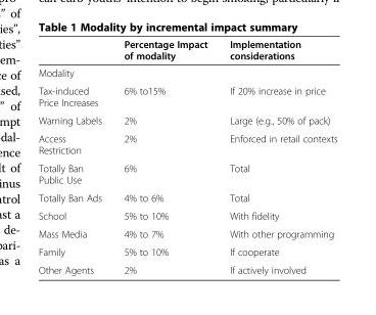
<table><thead><tr><td></td><td>Percentage Impact of modality</td><td>Implementation considerations</td></tr></thead><tbody><tr><td colspan="3">Modality</td></tr><tr><td>Tax-induced Price Increases</td><td>6% to15%</td><td>If 20% increase in price</td></tr><tr><td>Warning Labels</td><td>2%</td><td>Large (e.g., 50% of pack)</td></tr><tr><td>Access Restriction</td><td>2%</td><td>Enforced in retail contexts</td></tr><tr><td>Totally Ban Public Use</td><td>6%</td><td>Total</td></tr><tr><td>Totally Ban Ads</td><td>4% to 6%</td><td>Total</td></tr><tr><td>School</td><td>5% to 10%</td><td>With fidelity</td></tr><tr><td>Mass Media</td><td>4% to 7%</td><td>With other programming</td></tr><tr><td>Family</td><td>5% to 10%</td><td>If cooperate</td></tr><tr><td>Other Agents</td><td>2%</td><td>If actively involved</td></tr></tbody></table>